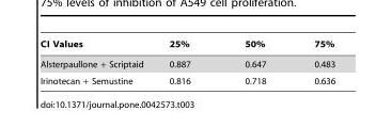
<table><thead><tr><td>CI Values</td><td>25%</td><td>50%</td><td>75%</td></tr></thead><tbody><tr><td>Alsterpaullone + Scriptaid</td><td>0.887</td><td>0.647</td><td>0.483</td></tr><tr><td>Irinotecan + Semustine</td><td>0.816</td><td>0.718</td><td>0.636</td></tr></tbody></table>